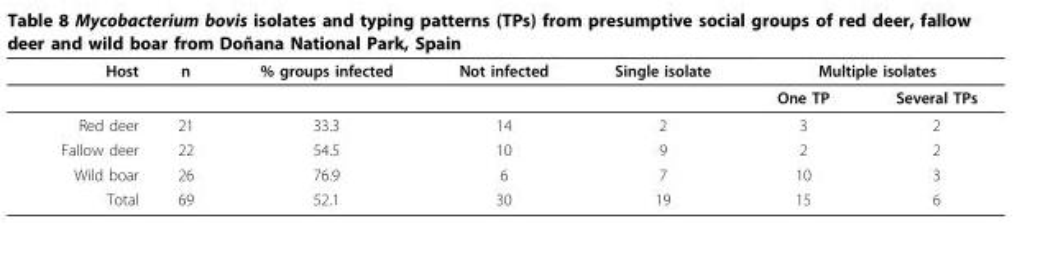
<table><thead><tr><td rowspan="2">Host</td><td rowspan="2">n</td><td rowspan="2">% groups infected</td><td rowspan="2">Not infected</td><td rowspan="2">Single isolate</td><td colspan="2">Multiple isolates</td></tr><tr><td>One TP</td><td>Several TPs</td></tr></thead><tbody><tr><td>Red deer</td><td>21</td><td>33.3</td><td>14</td><td>2</td><td>3</td><td>2</td></tr><tr><td>Fallow deer</td><td>22</td><td>54.5</td><td>10</td><td>9</td><td>2</td><td>2</td></tr><tr><td>Wild boar</td><td>26</td><td>76.9</td><td>6</td><td>7</td><td>10</td><td>3</td></tr><tr><td>Total</td><td>69</td><td>52.1</td><td>30</td><td>19</td><td>15</td><td>6</td></tr></tbody></table>